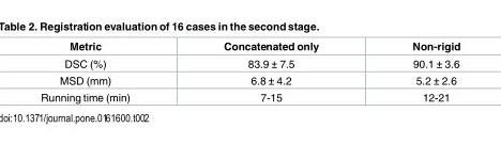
<table><thead><tr><td>Metric</td><td>Concatenated only</td><td>Non-rigid</td></tr></thead><tbody><tr><td>DSC (%)</td><td>83.9 ± 7.5</td><td>90.1 ± 3.6</td></tr><tr><td>MSD (mm)</td><td>6.8 ± 4.2</td><td>5.2 ± 2.6</td></tr><tr><td>Running time (min)</td><td>7-15</td><td>12-21</td></tr></tbody></table>